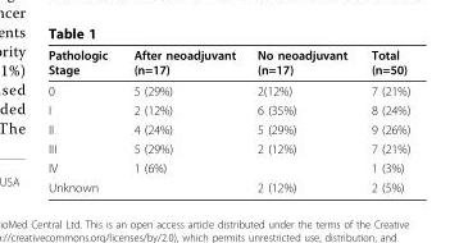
<table><thead><tr><td>Pathologic Stage</td><td>After neoadjuvant (n=17)</td><td>No neoadjuvant (n=17)</td><td>Total (n=50)</td></tr></thead><tbody><tr><td>0</td><td>5 (29%)</td><td>2(12%)</td><td>7 (21%)</td></tr><tr><td>I</td><td>2 (12%)</td><td>6 (35%)</td><td>8 (24%)</td></tr><tr><td>II</td><td>4 (24%)</td><td>5 (29%)</td><td>9 (26%)</td></tr><tr><td>III</td><td>5 (29%)</td><td>2 (12%)</td><td>7 (21%)</td></tr><tr><td>IV</td><td>1 (6%)</td><td></td><td>1 (3%)</td></tr><tr><td>Unknown</td><td></td><td>2 (12%)</td><td>2 (5%)</td></tr></tbody></table>